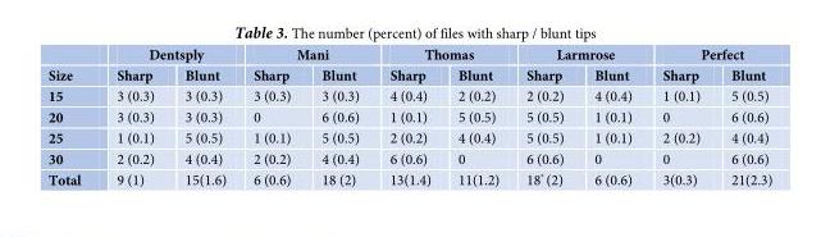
<table><thead><tr><td rowspan="2">Size</td><td colspan="2">Dentsply</td><td colspan="2">Mani</td><td colspan="2">Thomas</td><td colspan="2">Larmrose</td><td colspan="2">Perfect</td></tr><tr><td>Sharp</td><td>Blunt</td><td>Sharp</td><td>Blunt</td><td>Sharp</td><td>Blunt</td><td>Sharp</td><td>Blunt</td><td>Sharp</td><td>Blunt</td></tr></thead><tbody><tr><td>15</td><td>3 (0.3)</td><td>3 (0.3)</td><td>3 (0.3)</td><td>3 (0.3)</td><td>4 (0.4)</td><td>2 (0.2)</td><td>2 (0.2)</td><td>4 (0.4)</td><td>1 (0.1)</td><td>5 (0.5)</td></tr><tr><td>20</td><td>3 (0.3)</td><td>3 (0.3)</td><td>0</td><td>6 (0.6)</td><td>1 (0.1)</td><td>5 (0.5)</td><td>5 (0.5)</td><td>1 (0.1)</td><td>0</td><td>6 (0.6)</td></tr><tr><td>25</td><td>1 (0.1)</td><td>5 (0.5)</td><td>1 (0.1)</td><td>5 (0.5)</td><td>2 (0.2)</td><td>4 (0.4)</td><td>5 (0.5)</td><td>1 (0.1)</td><td>2 (0.2)</td><td>4 (0.4)</td></tr><tr><td>30</td><td>2 (0.2)</td><td>4 (0.4)</td><td>2 (0.2)</td><td>4 (0.4)</td><td>6 (0.6)</td><td>0</td><td>6 (0.6)</td><td>0</td><td>0</td><td>6 (0.6)</td></tr><tr><td>Total</td><td>9 (1)</td><td>15(1.6)</td><td>6 (0.6)</td><td>18 (2)</td><td>13(1.4)</td><td>11(1.2)</td><td>18* (2)</td><td>6 (0.6)</td><td>3(0.3)</td><td>21(2.3)</td></tr></tbody></table>